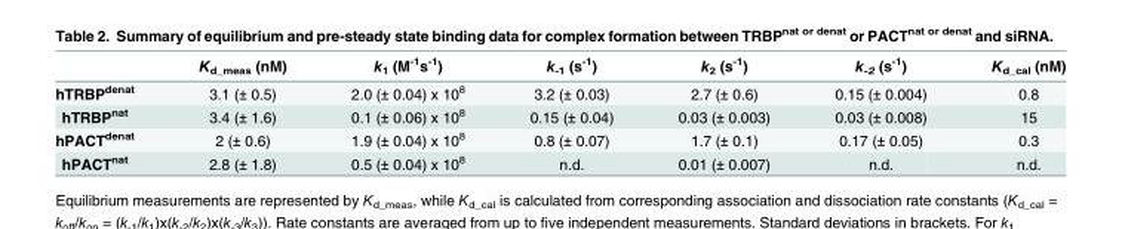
<table><thead><tr><td></td><td>K<sub>d_meas</sub> (nM)</td><td>k<sub>1</sub> (M<sup>-1</sup>s<sup>-1</sup>)</td><td>k<sub>-1</sub> (s<sup>-1</sup>)</td><td>k<sub>2</sub> (s<sup>-1</sup>)</td><td>k<sub>-2</sub> (s<sup>-1</sup>)</td><td>K<sub>d_cal</sub> (nM)</td></tr></thead><tbody><tr><td>hTRBP<sup>denat</sup></td><td>3.1 (± 0.5)</td><td>2.0 (± 0.04) x 10<sup>8</sup></td><td>3.2 (± 0.03)</td><td>2.7 (± 0.6)</td><td>0.15 (± 0.004)</td><td>0.8</td></tr><tr><td>hTRBP<sup>nat</sup></td><td>3.4 (± 1.6)</td><td>0.1 (± 0.06) x 10<sup>8</sup></td><td>0.15 (± 0.04)</td><td>0.03 (± 0.003)</td><td>0.03 (± 0.008)</td><td>15</td></tr><tr><td>hPACT<sup>denat</sup></td><td>2 (± 0.6)</td><td>1.9 (± 0.04) x 10<sup>8</sup></td><td>0.8 (± 0.07)</td><td>1.7 (± 0.1)</td><td>0.17 (± 0.05)</td><td>0.3</td></tr><tr><td>hPACT<sup>nat</sup></td><td>2.8 (± 1.8)</td><td>0.5 (± 0.04) x 10<sup>8</sup></td><td>n.d.</td><td>0.01 (± 0.007)</td><td>n.d.</td><td>n.d.</td></tr></tbody></table>